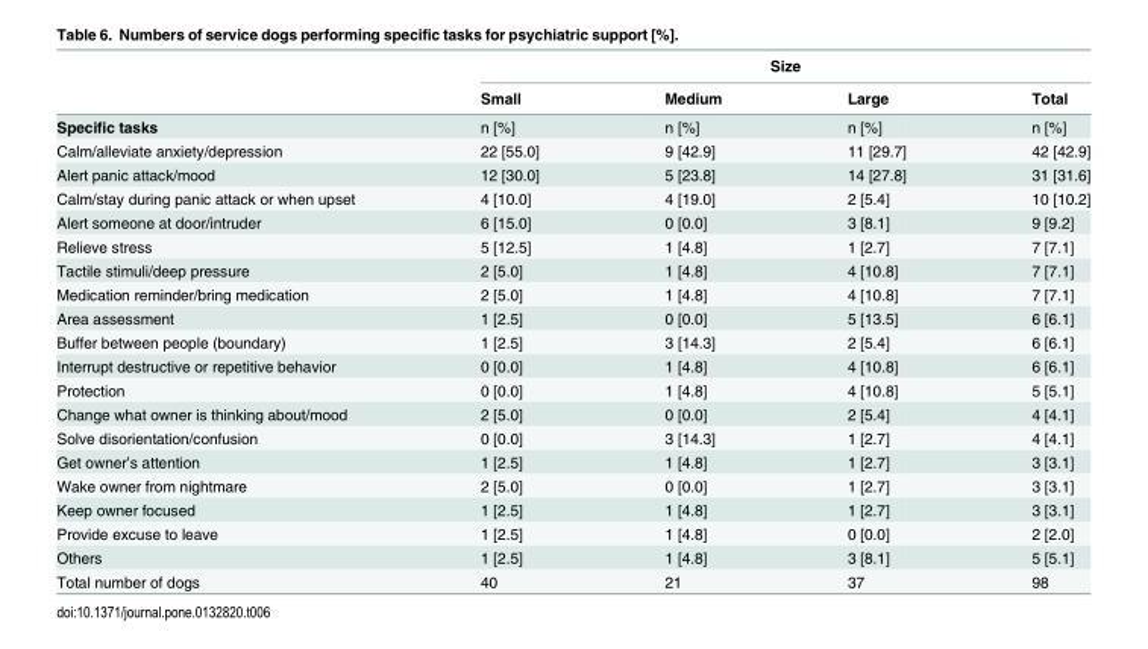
<table><thead><tr><td rowspan="2"></td><td colspan="4">Size</td></tr><tr><td>Small</td><td>Medium</td><td>Large</td><td>Total</td></tr></thead><tbody><tr><td>Specific tasks</td><td>n [%]</td><td>n [%]</td><td>n [%]</td><td>n [%]</td></tr><tr><td>Calm/alleviate anxiety/depression</td><td>22 [55.0]</td><td>9 [42.9]</td><td>11 [29.7]</td><td>42 [42.9]</td></tr><tr><td>Alert panic attack/mood</td><td>12 [30.0]</td><td>5 [23.8]</td><td>14 [27.8]</td><td>31 [31.6]</td></tr><tr><td>Calm/stay during panic attack or when upset</td><td>4 [10.0]</td><td>4 [19.0]</td><td>2 [5.4]</td><td>10 [10.2]</td></tr><tr><td>Alert someone at door/intruder</td><td>6 [15.0]</td><td>0 [0.0]</td><td>3 [8.1]</td><td>9 [9.2]</td></tr><tr><td>Relieve stress</td><td>5 [12.5]</td><td>1 [4.8]</td><td>1 [2.7]</td><td>7 [7.1]</td></tr><tr><td>Tactile stimuli/deep pressure</td><td>2 [5.0]</td><td>1 [4.8]</td><td>4 [10.8]</td><td>7 [7.1]</td></tr><tr><td>Medication reminder/bring medication</td><td>2 [5.0]</td><td>1 [4.8]</td><td>4 [10.8]</td><td>7 [7.1]</td></tr><tr><td>Area assessment</td><td>1 [2.5]</td><td>0 [0.0]</td><td>5 [13.5]</td><td>6 [6.1]</td></tr><tr><td>Buffer between people (boundary)</td><td>1 [2.5]</td><td>3 [14.3]</td><td>2 [5.4]</td><td>6 [6.1]</td></tr><tr><td>Interrupt destructive or repetitive behavior</td><td>0 [0.0]</td><td>1 [4.8]</td><td>4 [10.8]</td><td>6 [6.1]</td></tr><tr><td>Protection</td><td>0 [0.0]</td><td>1 [4.8]</td><td>4 [10.8]</td><td>5 [5.1]</td></tr><tr><td>Change what owner is thinking about/mood</td><td>2 [5.0]</td><td>0 [0.0]</td><td>2 [5.4]</td><td>4 [4.1]</td></tr><tr><td>Solve disorientation/confusion</td><td>0 [0.0]</td><td>3 [14.3]</td><td>1 [2.7]</td><td>4 [4.1]</td></tr><tr><td>Get owner’s attention</td><td>1 [2.5]</td><td>1 [4.8]</td><td>1 [2.7]</td><td>3 [3.1]</td></tr><tr><td>Wake owner from nightmare</td><td>2 [5.0]</td><td>0 [0.0]</td><td>1 [2.7]</td><td>3 [3.1]</td></tr><tr><td>Keep owner focused</td><td>1 [2.5]</td><td>1 [4.8]</td><td>1 [2.7]</td><td>3 [3.1]</td></tr><tr><td>Provide excuse to leave</td><td>1 [2.5]</td><td>1 [4.8]</td><td>0 [0.0]</td><td>2 [2.0]</td></tr><tr><td>Others</td><td>1 [2.5]</td><td>1 [4.8]</td><td>3 [8.1]</td><td>5 [5.1]</td></tr><tr><td>Total number of dogs</td><td>40</td><td>21</td><td>37</td><td>98</td></tr></tbody></table>